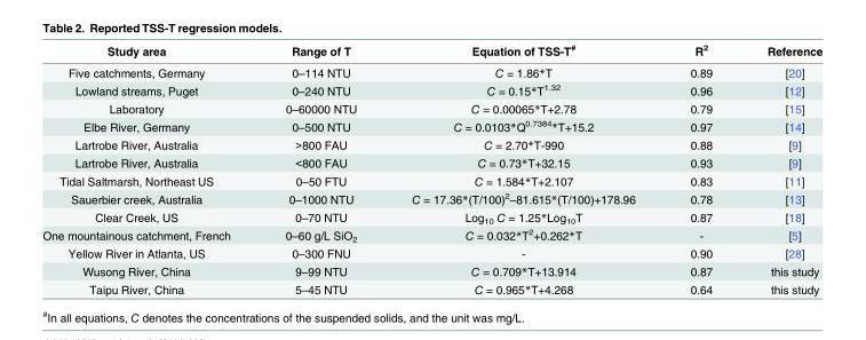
<table><thead><tr><td>Study area</td><td>Range of T</td><td>Equation of TSS-T<sup>#</sup></td><td>R<sup>2</sup></td><td>Reference</td></tr></thead><tbody><tr><td>Five catchments, Germany</td><td>0–114 NTU</td><td>C = 1.86*T</td><td>0.89</td><td>[20]</td></tr><tr><td>Lowland streams, Puget</td><td>0–240 NTU</td><td>C = 0.15*T<sup>1.32</sup></td><td>0.96</td><td>[12]</td></tr><tr><td>Laboratory</td><td>0–60000 NTU</td><td>C = 0.00065*T+2.78</td><td>0.79</td><td>[15]</td></tr><tr><td>Elbe River, Germany</td><td>0–500 NTU</td><td>C = 0.0103*Q<sup>0.7384</sup>*T+15.2</td><td>0.97</td><td>[14]</td></tr><tr><td>Lartrobe River, Australia</td><td>&gt;800 FAU</td><td>C = 2.70*T-990</td><td>0.88</td><td>[9]</td></tr><tr><td>Lartrobe River, Australia</td><td>&lt;800 FAU</td><td>C = 0.73*T+32.15</td><td>0.93</td><td>[9]</td></tr><tr><td>Tidal Saltmarsh, Northeast US</td><td>0–50 FTU</td><td>C = 1.584*T+2.107</td><td>0.83</td><td>[11]</td></tr><tr><td>Sauerbier creek, Australia</td><td>0–1000 NTU</td><td>C = 17.36*(T/100)<sup>2</sup>–81.615*(T/100)+178.96</td><td>0.78</td><td>[13]</td></tr><tr><td>Clear Creek, US</td><td>0–70 NTU</td><td>Log<sub>10</sub> C = 1.25*Log<sub>10</sub>T</td><td>0.87</td><td>[18]</td></tr><tr><td>One mountainous catchment, French</td><td>0–60 g/L SiO<sub>2</sub></td><td>C = 0.032*T<sup>2</sup>+0.262*T</td><td>-</td><td>[5]</td></tr><tr><td>Yellow River in Atlanta, US</td><td>0–300 FNU</td><td>-</td><td>0.90</td><td>[28]</td></tr><tr><td>Wusong River, China</td><td>9–99 NTU</td><td>C = 0.709*T+13.914</td><td>0.87</td><td>this study</td></tr><tr><td>Taipu River, China</td><td>5–45 NTU</td><td>C = 0.965*T+4.268</td><td>0.64</td><td>this study</td></tr></tbody></table>